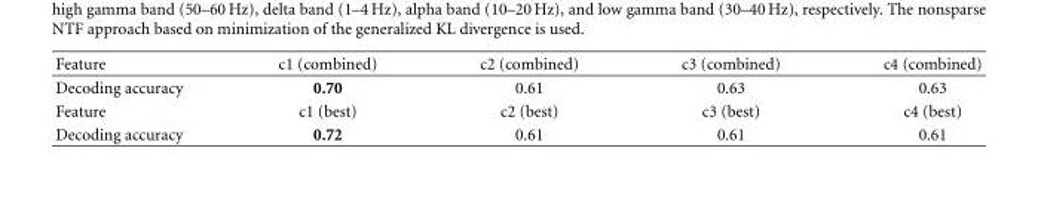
<table><thead><tr><td>Feature</td><td>c1 (combined)</td><td>c2 (combined)</td><td>c3 (combined)</td><td>c4 (combined)</td></tr></thead><tbody><tr><td>Decoding accuracy</td><td>0.70</td><td>0.61</td><td>0.63</td><td>0.63</td></tr><tr><td>Feature</td><td>c1 (best)</td><td>c2 (best)</td><td>c3 (best)</td><td>c4 (best)</td></tr><tr><td>Decoding accuracy</td><td>0.72</td><td>0.61</td><td>0.61</td><td>0.61</td></tr></tbody></table>